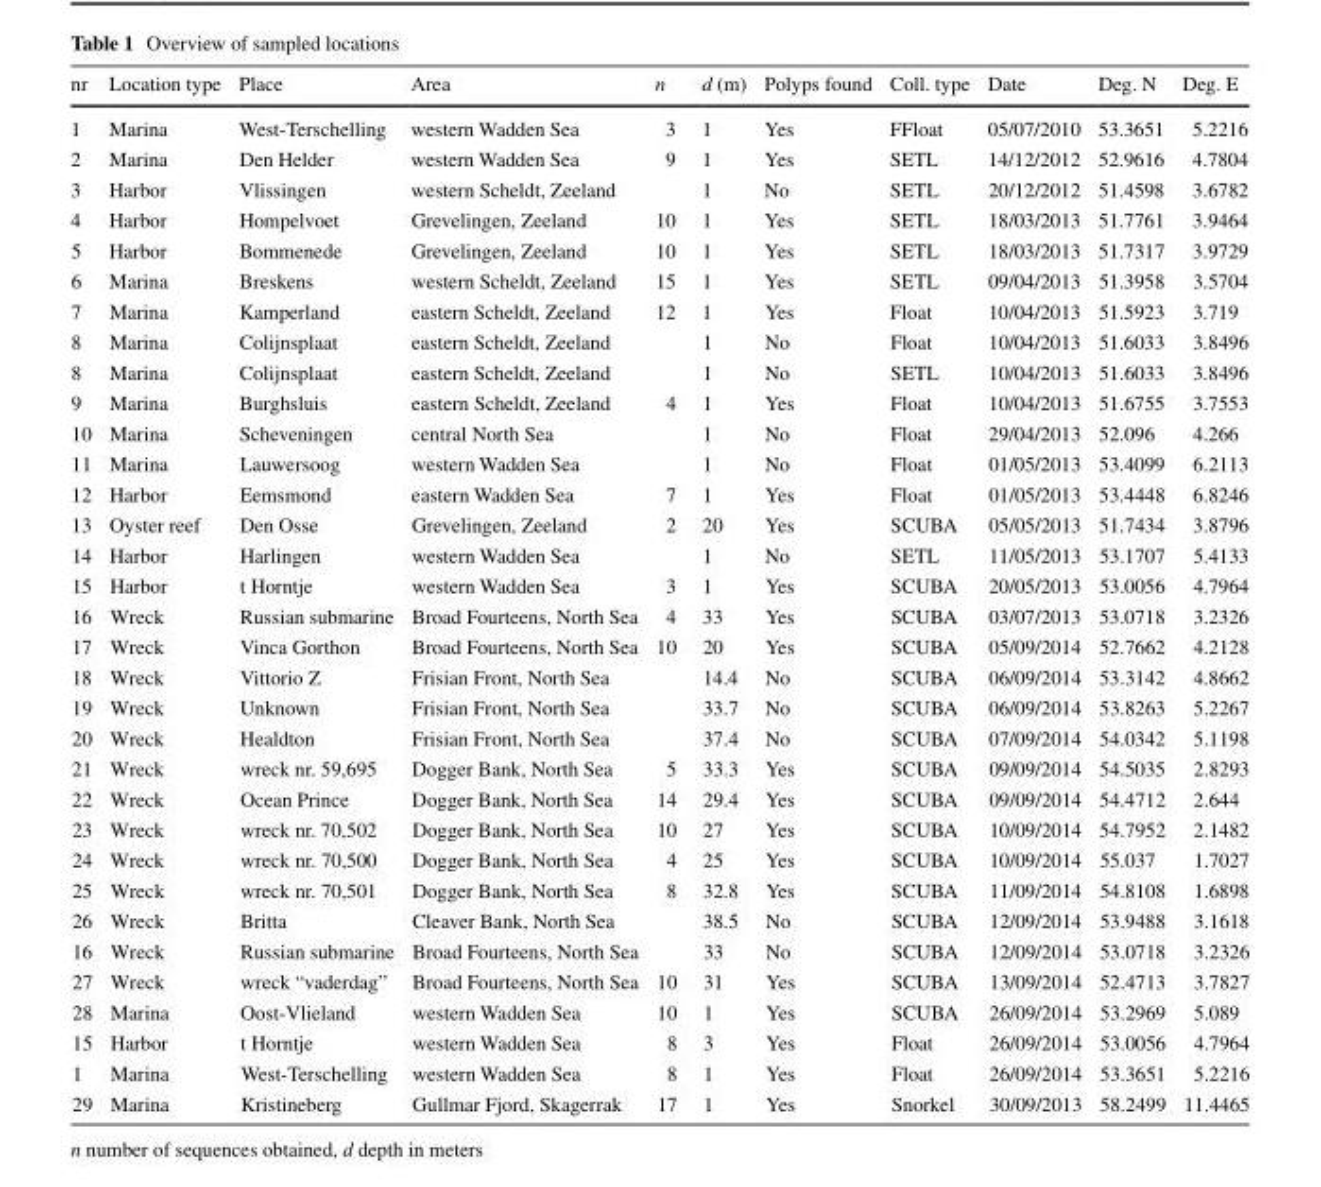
<table><thead><tr><td>nr</td><td>Location type</td><td>Place</td><td>Area</td><td>n</td><td>d (m)</td><td>Polyps found</td><td>Coll. type</td><td>Date</td><td>Deg. N</td><td>Deg. E</td></tr></thead><tbody><tr><td>1</td><td>Marina</td><td>West-Terschelling</td><td>western Wadden Sea</td><td>3</td><td>1</td><td>Yes</td><td>FFloat</td><td>05/07/2010</td><td>53.3651</td><td>5.2216</td></tr><tr><td>2</td><td>Marina</td><td>Den Helder</td><td>western Wadden Sea</td><td>9</td><td>1</td><td>Yes</td><td>SETL</td><td>14/12/2012</td><td>52.9616</td><td>4.7804</td></tr><tr><td>3</td><td>Harbor</td><td>Vlissingen</td><td>western Scheldt, Zeeland</td><td></td><td>1</td><td>No</td><td>SETL</td><td>20/12/2012</td><td>51.4598</td><td>3.6782</td></tr><tr><td>4</td><td>Harbor</td><td>Hompelvoet</td><td>Grevelingen, Zeeland</td><td>10</td><td>1</td><td>Yes</td><td>SETL</td><td>18/03/2013</td><td>51.7761</td><td>3.9464</td></tr><tr><td>5</td><td>Harbor</td><td>Bommenede</td><td>Grevelingen, Zeeland</td><td>10</td><td>1</td><td>Yes</td><td>SETL</td><td>18/03/2013</td><td>51.7317</td><td>3.9729</td></tr><tr><td>6</td><td>Marina</td><td>Breskens</td><td>western Scheldt, Zeeland</td><td>15</td><td>1</td><td>Yes</td><td>SETL</td><td>09/04/2013</td><td>51.3958</td><td>3.5704</td></tr><tr><td>7</td><td>Marina</td><td>Kamperland</td><td>eastern Scheldt, Zeeland</td><td>12</td><td>1</td><td>Yes</td><td>Float</td><td>10/04/2013</td><td>51.5923</td><td>3.719</td></tr><tr><td>8</td><td>Marina</td><td>Colijnsplaat</td><td>eastern Scheldt, Zeeland</td><td></td><td>1</td><td>No</td><td>Float</td><td>10/04/2013</td><td>51.6033</td><td>3.8496</td></tr><tr><td>8</td><td>Marina</td><td>Colijnsplaat</td><td>eastern Scheldt, Zeeland</td><td></td><td>1</td><td>No</td><td>SETL</td><td>10/04/2013</td><td>51.6033</td><td>3.8496</td></tr><tr><td>9</td><td>Marina</td><td>Burghsluis</td><td>eastern Scheldt, Zeeland</td><td>4</td><td>1</td><td>Yes</td><td>Float</td><td>10/04/2013</td><td>51.6755</td><td>3.7553</td></tr><tr><td>10</td><td>Marina</td><td>Scheveningen</td><td>central North Sea</td><td></td><td>1</td><td>No</td><td>Float</td><td>29/04/2013</td><td>52.096</td><td>4.266</td></tr><tr><td>11</td><td>Marina</td><td>Lauwersoog</td><td>western Wadden Sea</td><td></td><td>1</td><td>No</td><td>Float</td><td>01/05/2013</td><td>53.4099</td><td>6.2113</td></tr><tr><td>12</td><td>Harbor</td><td>Eemsmond</td><td>eastern Wadden Sea</td><td>7</td><td>1</td><td>Yes</td><td>Float</td><td>01/05/2013</td><td>53.4448</td><td>6.8246</td></tr><tr><td>13</td><td>Oyster reef</td><td>Den Osse</td><td>Grevelingen, Zeeland</td><td>2</td><td>20</td><td>Yes</td><td>SCUBA</td><td>05/05/2013</td><td>51.7434</td><td>3.8796</td></tr><tr><td>14</td><td>Harbor</td><td>Harlingen</td><td>western Wadden Sea</td><td></td><td>1</td><td>No</td><td>SETL</td><td>11/05/2013</td><td>53.1707</td><td>5.4133</td></tr><tr><td>15</td><td>Harbor</td><td>t Horntje</td><td>western Wadden Sea</td><td>3</td><td>1</td><td>Yes</td><td>SCUBA</td><td>20/05/2013</td><td>53.0056</td><td>4.7964</td></tr><tr><td>16</td><td>Wreck</td><td>Russian submarine</td><td>Broad Fourteens, North Sea</td><td>4</td><td>33</td><td>Yes</td><td>SCUBA</td><td>03/07/2013</td><td>53.0718</td><td>3.2326</td></tr><tr><td>17</td><td>Wreck</td><td>Vinca Gorthon</td><td>Broad Fourteens, North Sea</td><td>10</td><td>20</td><td>Yes</td><td>SCUBA</td><td>05/09/2014</td><td>52.7662</td><td>4.2128</td></tr><tr><td>18</td><td>Wreck</td><td>Vittorio Z</td><td>Frisian Front, North Sea</td><td></td><td>14.4</td><td>No</td><td>SCUBA</td><td>06/09/2014</td><td>53.3142</td><td>4.8662</td></tr><tr><td>19</td><td>Wreck</td><td>Unknown</td><td>Frisian Front, North Sea</td><td></td><td>33.7</td><td>No</td><td>SCUBA</td><td>06/09/2014</td><td>53.8263</td><td>5.2267</td></tr><tr><td>20</td><td>Wreck</td><td>Healdton</td><td>Frisian Front, North Sea</td><td></td><td>37.4</td><td>No</td><td>SCUBA</td><td>07/09/2014</td><td>54.0342</td><td>5.1198</td></tr><tr><td>21</td><td>Wreck</td><td>wreck nr. 59,695</td><td>Dogger Bank, North Sea</td><td>5</td><td>33.3</td><td>Yes</td><td>SCUBA</td><td>09/09/2014</td><td>54.5035</td><td>2.8293</td></tr><tr><td>22</td><td>Wreck</td><td>Ocean Prince</td><td>Dogger Bank, North Sea</td><td>14</td><td>29.4</td><td>Yes</td><td>SCUBA</td><td>09/09/2014</td><td>54.4712</td><td>2.644</td></tr><tr><td>23</td><td>Wreck</td><td>wreck nr. 70,502</td><td>Dogger Bank, North Sea</td><td>10</td><td>27</td><td>Yes</td><td>SCUBA</td><td>10/09/2014</td><td>54.7952</td><td>2.1482</td></tr><tr><td>24</td><td>Wreck</td><td>wreck nr. 70,500</td><td>Dogger Bank, North Sea</td><td>4</td><td>25</td><td>Yes</td><td>SCUBA</td><td>10/09/2014</td><td>55.037</td><td>1.7027</td></tr><tr><td>25</td><td>Wreck</td><td>wreck nr. 70,501</td><td>Dogger Bank, North Sea</td><td>8</td><td>32.8</td><td>Yes</td><td>SCUBA</td><td>11/09/2014</td><td>54.8108</td><td>1.6898</td></tr><tr><td>26</td><td>Wreck</td><td>Britta</td><td>Cleaver Bank, North Sea</td><td></td><td>38.5</td><td>No</td><td>SCUBA</td><td>12/09/2014</td><td>53.9488</td><td>3.1618</td></tr><tr><td>16</td><td>Wreck</td><td>Russian submarine</td><td>Broad Fourteens, North Sea</td><td></td><td>33</td><td>No</td><td>SCUBA</td><td>12/09/2014</td><td>53.0718</td><td>3.2326</td></tr><tr><td>27</td><td>Wreck</td><td>wreck “vaderdag”</td><td>Broad Fourteens, North Sea</td><td>10</td><td>31</td><td>Yes</td><td>SCUBA</td><td>13/09/2014</td><td>52.4713</td><td>3.7827</td></tr><tr><td>28</td><td>Marina</td><td>Oost-Vlieland</td><td>western Wadden Sea</td><td>10</td><td>1</td><td>Yes</td><td>SCUBA</td><td>26/09/2014</td><td>53.2969</td><td>5.089</td></tr><tr><td>15</td><td>Harbor</td><td>t Horntje</td><td>western Wadden Sea</td><td>8</td><td>3</td><td>Yes</td><td>Float</td><td>26/09/2014</td><td>53.0056</td><td>4.7964</td></tr><tr><td>1</td><td>Marina</td><td>West-Terschelling</td><td>western Wadden Sea</td><td>8</td><td>1</td><td>Yes</td><td>Float</td><td>26/09/2014</td><td>53.3651</td><td>5.2216</td></tr><tr><td>29</td><td>Marina</td><td>Kristineberg</td><td>Gullmar Fjord, Skagerrak</td><td>17</td><td>1</td><td>Yes</td><td>Snorkel</td><td>30/09/2013</td><td>58.2499</td><td>11.4465</td></tr></tbody></table>